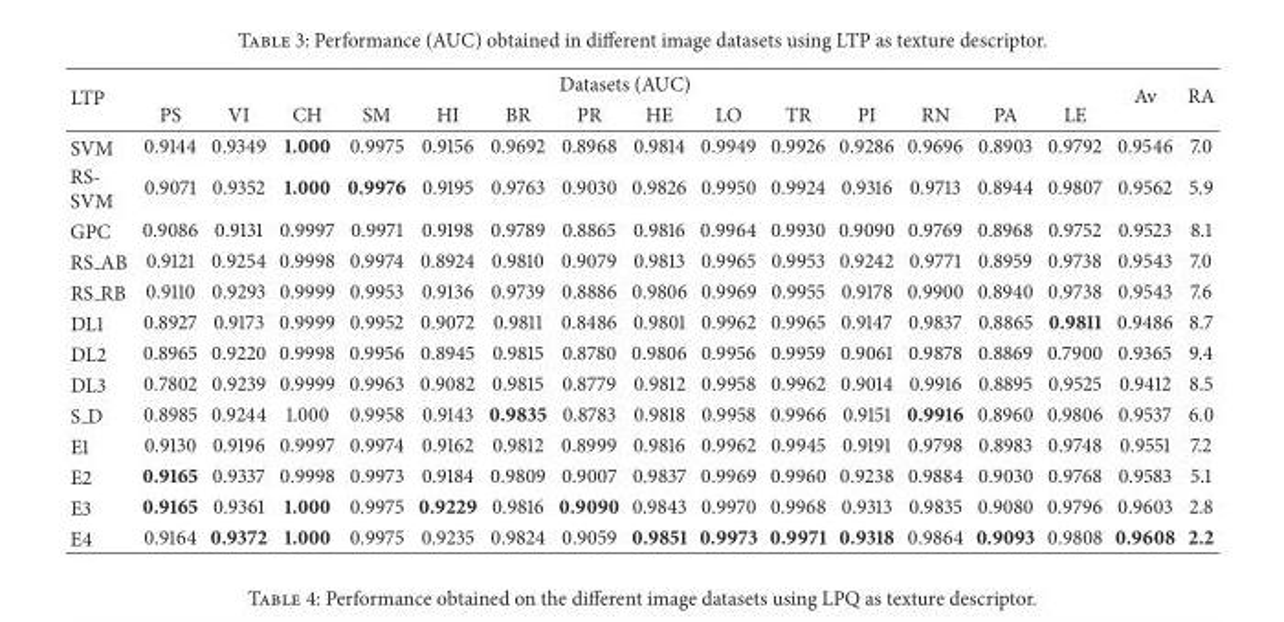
<table><thead><tr><td rowspan="2">LTP</td><td colspan="14">Datasets (AUC)</td><td rowspan="2">Av</td><td rowspan="2">RA</td></tr><tr><td>PS</td><td>VI</td><td>CH</td><td>SM</td><td>HI</td><td>BR</td><td>PR</td><td>HE</td><td>LO</td><td>TR</td><td>PI</td><td>RN</td><td>PA</td><td>LE</td></tr></thead><tbody><tr><td>SVM</td><td>0.9144</td><td>0.9349</td><td>1.000</td><td>0.9975</td><td>0.9156</td><td>0.9692</td><td>0.8968</td><td>0.9814</td><td>0.9949</td><td>0.9926</td><td>0.9286</td><td>0.9696</td><td>0.8903</td><td>0.9792</td><td>0.9546</td><td>7.0</td></tr><tr><td>RS- SVM</td><td>0.9071</td><td>0.9352</td><td>1.000</td><td>0.9976</td><td>0.9195</td><td>0.9763</td><td>0.9030</td><td>0.9826</td><td>0.9950</td><td>0.9924</td><td>0.9316</td><td>0.9713</td><td>0.8944</td><td>0.9807</td><td>0.9562</td><td>5.9</td></tr><tr><td>GPC</td><td>0.9086</td><td>0.9131</td><td>0.9997</td><td>0.9971</td><td>0.9198</td><td>0.9789</td><td>0.8865</td><td>0.9816</td><td>0.9964</td><td>0.9930</td><td>0.9090</td><td>0.9769</td><td>0.8968</td><td>0.9752</td><td>0.9523</td><td>8.1</td></tr><tr><td>RS AB</td><td>0.9121</td><td>0.9254</td><td>0.9998</td><td>0.9974</td><td>0.8924</td><td>0.9810</td><td>0.9079</td><td>0.9813</td><td>0.9965</td><td>0.9953</td><td>0.9242</td><td>0.9771</td><td>0.8959</td><td>0.9738</td><td>0.9543</td><td>7.0</td></tr><tr><td>RS RB</td><td>0.9110</td><td>0.9293</td><td>0.9999</td><td>0.9953</td><td>0.9136</td><td>0.9739</td><td>0.8886</td><td>0.9806</td><td>0.9969</td><td>0.9955</td><td>0.9178</td><td>0.9900</td><td>0.8940</td><td>0.9738</td><td>0.9543</td><td>7.6</td></tr><tr><td>DL1</td><td>0.8927</td><td>0.9173</td><td>0.9999</td><td>0.9952</td><td>0.9072</td><td>0.9811</td><td>0.8486</td><td>0.9801</td><td>0.9962</td><td>0.9965</td><td>0.9147</td><td>0.9837</td><td>0.8865</td><td>0.9811</td><td>0.9486</td><td>8.7</td></tr><tr><td>DL2</td><td>0.8965</td><td>0.9220</td><td>0.9998</td><td>0.9956</td><td>0.8945</td><td>0.9815</td><td>0.8780</td><td>0.9806</td><td>0.9956</td><td>0.9959</td><td>0.9061</td><td>0.9878</td><td>0.8869</td><td>0.7900</td><td>0.9365</td><td>9.4</td></tr><tr><td>DL3</td><td>0.7802</td><td>0.9239</td><td>0.9999</td><td>0.9963</td><td>0.9082</td><td>0.9815</td><td>0.8779</td><td>0.9812</td><td>0.9958</td><td>0.9962</td><td>0.9014</td><td>0.9916</td><td>0.8895</td><td>0.9525</td><td>0.9412</td><td>8.5</td></tr><tr><td>S D</td><td>0.8985</td><td>0.9244</td><td>1.000</td><td>0.9958</td><td>0.9143</td><td>0.9835</td><td>0.8783</td><td>0.9818</td><td>0.9958</td><td>0.9966</td><td>0.9151</td><td>0.9916</td><td>0.8960</td><td>0.9806</td><td>0.9537</td><td>6.0</td></tr><tr><td>E1</td><td>0.9130</td><td>0.9196</td><td>0.9997</td><td>0.9974</td><td>0.9162</td><td>0.9812</td><td>0.8999</td><td>0.9816</td><td>0.9962</td><td>0.9945</td><td>0.9191</td><td>0.9798</td><td>0.8983</td><td>0.9748</td><td>0.9551</td><td>7.2</td></tr><tr><td>E2</td><td>0.9165</td><td>0.9337</td><td>0.9998</td><td>0.9973</td><td>0.9184</td><td>0.9809</td><td>0.9007</td><td>0.9837</td><td>0.9969</td><td>0.9960</td><td>0.9238</td><td>0.9884</td><td>0.9030</td><td>0.9768</td><td>0.9583</td><td>5.1</td></tr><tr><td>E3</td><td>0.9165</td><td>0.9361</td><td>1.000</td><td>0.9975</td><td>0.9229</td><td>0.9816</td><td>0.9090</td><td>0.9843</td><td>0.9970</td><td>0.9968</td><td>0.9313</td><td>0.9835</td><td>0.9080</td><td>0.9796</td><td>0.9603</td><td>2.8</td></tr><tr><td>E4</td><td>0.9164</td><td>0.9372</td><td>1.000</td><td>0.9975</td><td>0.9235</td><td>0.9824</td><td>0.9059</td><td>0.9851</td><td>0.9973</td><td>0.9971</td><td>0.9318</td><td>0.9864</td><td>0.9093</td><td>0.9808</td><td>0.9608</td><td>2.2</td></tr></tbody></table>